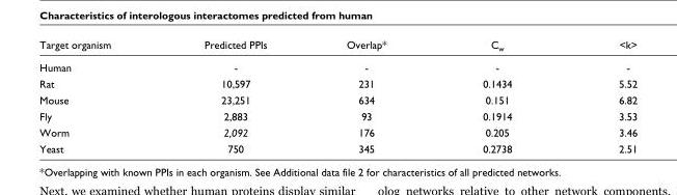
<table><thead><tr><td>Target organism</td><td>Predicted PPIs</td><td>Overlap*</td><td>C<sub>w</sub></td><td>&lt;k&gt;</td></tr></thead><tbody><tr><td>Human</td><td>-</td><td>-</td><td>-</td><td>-</td></tr><tr><td>Rat</td><td>10,597</td><td>231</td><td>0.1434</td><td>5.52</td></tr><tr><td>Mouse</td><td>23,251</td><td>634</td><td>0.151</td><td>6.82</td></tr><tr><td>Fly</td><td>2,883</td><td>93</td><td>0.1914</td><td>3.53</td></tr><tr><td>Worm</td><td>2,092</td><td>176</td><td>0.205</td><td>3.46</td></tr><tr><td>Yeast</td><td>750</td><td>345</td><td>0.2738</td><td>2.51</td></tr></tbody></table>